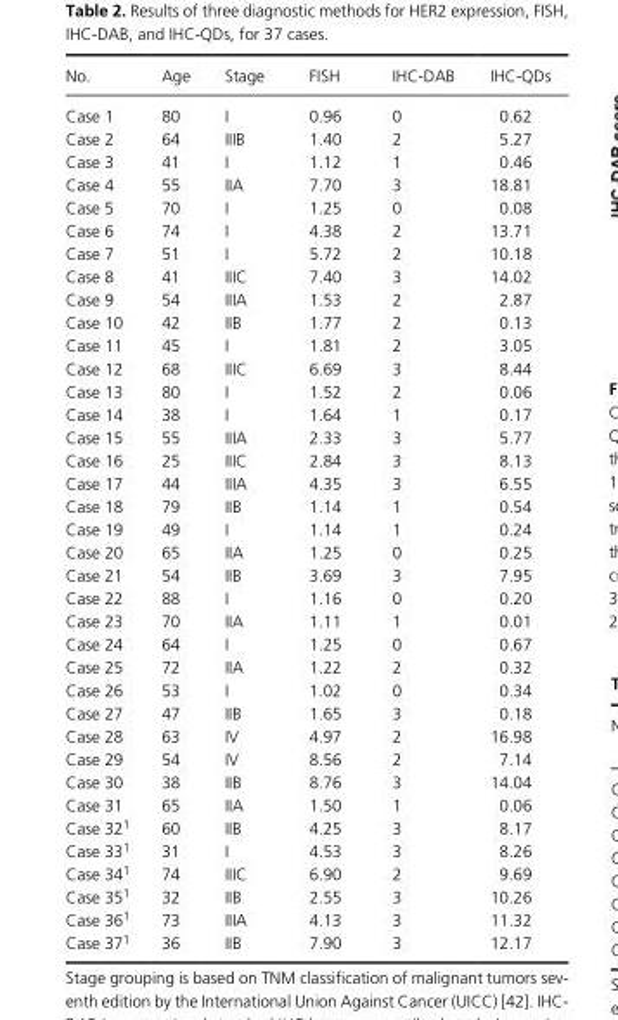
<table><thead><tr><td>No.</td><td>Age</td><td>Stage</td><td>FISH</td><td>IHC- DAB</td><td>IHC- QDs</td></tr></thead><tbody><tr><td>Case 1</td><td>80</td><td>I</td><td>0.96</td><td>0</td><td>0.62</td></tr><tr><td>Case 2</td><td>64</td><td>IIIB</td><td>1.40</td><td>2</td><td>5.27</td></tr><tr><td>Case 3</td><td>41</td><td>I</td><td>1.12</td><td>1</td><td>0.46</td></tr><tr><td>Case 4</td><td>55</td><td>IIA</td><td>7.70</td><td>3</td><td>18.81</td></tr><tr><td>Case 5</td><td>70</td><td>I</td><td>1.25</td><td>0</td><td>0.08</td></tr><tr><td>Case 6</td><td>74</td><td>I</td><td>4.38</td><td>2</td><td>13.71</td></tr><tr><td>Case 7</td><td>51</td><td>I</td><td>5.72</td><td>2</td><td>10.18</td></tr><tr><td>Case 8</td><td>41</td><td>IIIC</td><td>7.40</td><td>3</td><td>14.02</td></tr><tr><td>Case 9</td><td>54</td><td>IIIA</td><td>1.53</td><td>2</td><td>2.87</td></tr><tr><td>Case 10</td><td>42</td><td>IIB</td><td>1.77</td><td>2</td><td>0.13</td></tr><tr><td>Case 11</td><td>45</td><td>I</td><td>1.81</td><td>2</td><td>3.05</td></tr><tr><td>Case 12</td><td>68</td><td>IIIC</td><td>6.69</td><td>3</td><td>8.44</td></tr><tr><td>Case 13</td><td>80</td><td>I</td><td>1.52</td><td>2</td><td>0.06</td></tr><tr><td>Case 14</td><td>38</td><td>I</td><td>1.64</td><td>1</td><td>0.17</td></tr><tr><td>Case 15</td><td>55</td><td>IIIA</td><td>2.33</td><td>3</td><td>5.77</td></tr><tr><td>Case 16</td><td>25</td><td>IIIC</td><td>2.84</td><td>3</td><td>8.13</td></tr><tr><td>Case 17</td><td>44</td><td>IIIA</td><td>4.35</td><td>3</td><td>6.55</td></tr><tr><td>Case 18</td><td>79</td><td>IIB</td><td>1.14</td><td>1</td><td>0.54</td></tr><tr><td>Case 19</td><td>49</td><td>I</td><td>1.14</td><td>1</td><td>0.24</td></tr><tr><td>Case 20</td><td>65</td><td>IIA</td><td>1.25</td><td>0</td><td>0.25</td></tr><tr><td>Case 21</td><td>54</td><td>IIB</td><td>3.69</td><td>3</td><td>7.95</td></tr><tr><td>Case 22</td><td>88</td><td>I</td><td>1.16</td><td>0</td><td>0.20</td></tr><tr><td>Case 23</td><td>70</td><td>IIA</td><td>1.11</td><td>1</td><td>0.01</td></tr><tr><td>Case 24</td><td>64</td><td>I</td><td>1.25</td><td>0</td><td>0.67</td></tr><tr><td>Case 25</td><td>72</td><td>IIA</td><td>1.22</td><td>2</td><td>0.32</td></tr><tr><td>Case 26</td><td>53</td><td>I</td><td>1.02</td><td>0</td><td>0.34</td></tr><tr><td>Case 27</td><td>47</td><td>IIB</td><td>1.65</td><td>3</td><td>0.18</td></tr><tr><td>Case 28</td><td>63</td><td>IV</td><td>4.97</td><td>2</td><td>16.98</td></tr><tr><td>Case 29</td><td>54</td><td>IV</td><td>8.56</td><td>2</td><td>7.14</td></tr><tr><td>Case 30</td><td>38</td><td>IIB</td><td>8.76</td><td>3</td><td>14.04</td></tr><tr><td>Case 31</td><td>65</td><td>IIA</td><td>1.50</td><td>1</td><td>0.06</td></tr><tr><td>Case 321</td><td>60</td><td>IIB</td><td>4.25</td><td>3</td><td>8.17</td></tr><tr><td>Case 331</td><td>31</td><td>I</td><td>4.53</td><td>3</td><td>8.26</td></tr><tr><td>Case 341</td><td>74</td><td>IIIC</td><td>6.90</td><td>2</td><td>9.69</td></tr><tr><td>Case 351</td><td>32</td><td>IIB</td><td>2.55</td><td>3</td><td>10.26</td></tr><tr><td>Case 361</td><td>73</td><td>IIIA</td><td>4.13</td><td>3</td><td>11.32</td></tr><tr><td>Case 371</td><td>36</td><td>IIB</td><td>7.90</td><td>3</td><td>12.17</td></tr></tbody></table>